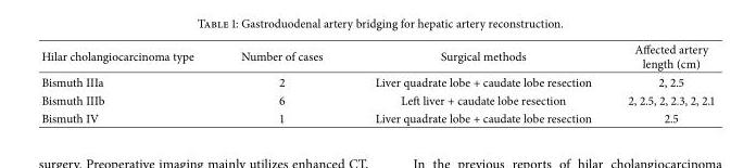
<table><thead><tr><td>Hilar cholangiocarcinoma type</td><td>Number of cases</td><td>Surgical methods</td><td>Affected artery length (cm)</td></tr></thead><tbody><tr><td>Bismuth IIIa</td><td>2</td><td>Liver quadrate lobe + caudate lobe resection</td><td>2, 2.5</td></tr><tr><td>Bismuth IIIb</td><td>6</td><td>Left liver + caudate lobe resection</td><td>2, 2.5, 2, 2.3, 2, 2.1</td></tr><tr><td>Bismuth IV</td><td>1</td><td>Liver quadrate lobe + caudate lobe resection</td><td>2.5</td></tr></tbody></table>